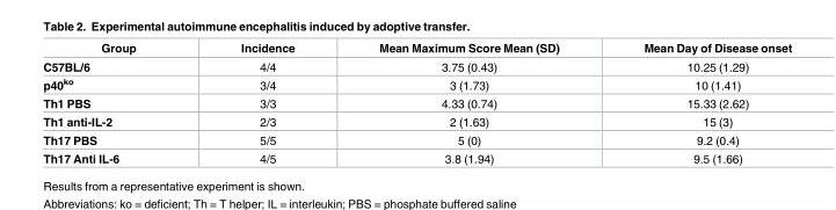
<table><thead><tr><td>Group</td><td>Incidence</td><td>Mean Maximum Score Mean (SD)</td><td>Mean Day of Disease onset</td></tr></thead><tbody><tr><td>C57BL/6</td><td>4/4</td><td>3.75 (0.43)</td><td>10.25 (1.29)</td></tr><tr><td>p40<sup>ko</sup></td><td>3/4</td><td>3 (1.73)</td><td>10 (1.41)</td></tr><tr><td>Th1 PBS</td><td>3/3</td><td>4.33 (0.74)</td><td>15.33 (2.62)</td></tr><tr><td>Th1 anti-IL-2</td><td>2/3</td><td>2 (1.63)</td><td>15 (3)</td></tr><tr><td>Th17 PBS</td><td>5/5</td><td>5 (0)</td><td>9.2 (0.4)</td></tr><tr><td>Th17 Anti IL-6</td><td>4/5</td><td>3.8 (1.94)</td><td>9.5 (1.66)</td></tr></tbody></table>